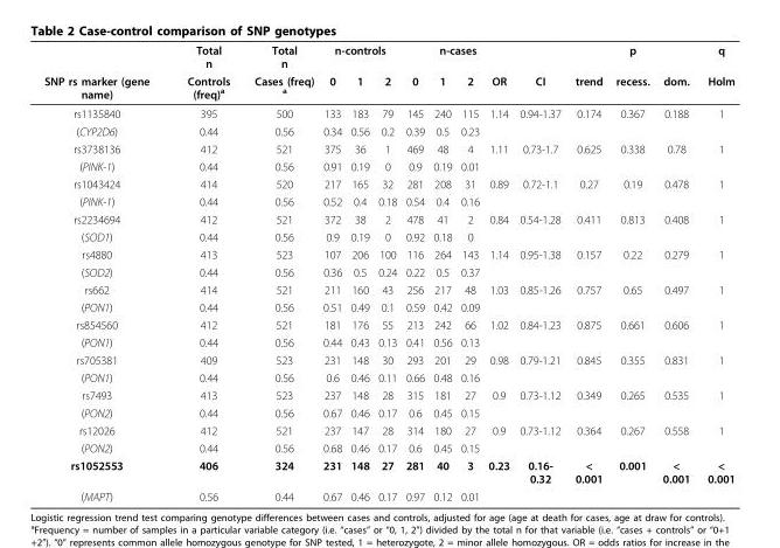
<table><thead><tr><td rowspan="2">SNP rs marker (gene name)</td><td rowspan="2">Total n Controls (freq)<sup>a</sup></td><td rowspan="2">Total n Cases (freq) <sup>a</sup></td><td colspan="3">n-controls</td><td colspan="4">n-cases</td><td rowspan="2">CI</td><td rowspan="2">trend</td><td rowspan="2">p recess.</td><td rowspan="2">dom.</td><td rowspan="2">q Holm</td></tr><tr><td>0</td><td>1</td><td>2</td><td>0</td><td>1</td><td>2</td><td>OR</td></tr></thead><tbody><tr><td>rs1135840</td><td>395</td><td>500</td><td>133</td><td>183</td><td>79</td><td>145</td><td>240</td><td>115</td><td>1.14</td><td>0.94-1.37</td><td>0.174</td><td>0.367</td><td>0.188</td><td>1</td></tr><tr><td>(CYP2D6)</td><td>0.44</td><td>0.56</td><td>0.34</td><td>0.56</td><td>0.2</td><td>0.39</td><td>0.5</td><td>0.23</td><td></td><td></td><td></td><td></td><td></td><td></td></tr><tr><td>rs3738136</td><td>412</td><td>521</td><td>375</td><td>36</td><td>1</td><td>469</td><td>48</td><td>4</td><td>1.11</td><td>0.73-1.7</td><td>0.625</td><td>0.338</td><td>0.78</td><td>1</td></tr><tr><td>(PINK-1)</td><td>0.44</td><td>0.56</td><td>0.91</td><td>0.19</td><td>0</td><td>0.9</td><td>0.19</td><td>0.01</td><td></td><td></td><td></td><td></td><td></td><td></td></tr><tr><td>rs1043424</td><td>414</td><td>520</td><td>217</td><td>165</td><td>32</td><td>281</td><td>208</td><td>31</td><td>0.89</td><td>0.72-1.1</td><td>0.27</td><td>0.19</td><td>0.478</td><td>1</td></tr><tr><td>(PINK-1)</td><td>0.44</td><td>0.56</td><td>0.52</td><td>0.4</td><td>0.18</td><td>0.54</td><td>0.4</td><td>0.16</td><td></td><td></td><td></td><td></td><td></td><td></td></tr><tr><td>rs2234694</td><td>412</td><td>521</td><td>372</td><td>38</td><td>2</td><td>478</td><td>41</td><td>2</td><td>0.84</td><td>0.54-1.28</td><td>0.411</td><td>0.813</td><td>0.408</td><td>1</td></tr><tr><td>(SOD1)</td><td>0.44</td><td>0.56</td><td>0.9</td><td>0.19</td><td>0</td><td>0.92</td><td>0.18</td><td>0</td><td></td><td></td><td></td><td></td><td></td><td></td></tr><tr><td>rs4880</td><td>413</td><td>523</td><td>107</td><td>206</td><td>100</td><td>116</td><td>264</td><td>143</td><td>1.14</td><td>0.95-1.38</td><td>0.157</td><td>0.22</td><td>0.279</td><td>1</td></tr><tr><td>(SOD2)</td><td>0.44</td><td>0.56</td><td>0.36</td><td>0.5</td><td>0.24</td><td>0.22</td><td>0.5</td><td>0.37</td><td></td><td></td><td></td><td></td><td></td><td></td></tr><tr><td>rs662</td><td>414</td><td>521</td><td>211</td><td>160</td><td>43</td><td>256</td><td>217</td><td>48</td><td>1.03</td><td>0.85-1.26</td><td>0.757</td><td>0.65</td><td>0.497</td><td>1</td></tr><tr><td>(PON1)</td><td>0.44</td><td>0.56</td><td>0.51</td><td>0.49</td><td>0.1</td><td>0.59</td><td>0.42</td><td>0.09</td><td></td><td></td><td></td><td></td><td></td><td></td></tr><tr><td>rs854560</td><td>412</td><td>521</td><td>181</td><td>176</td><td>55</td><td>213</td><td>242</td><td>66</td><td>1.02</td><td>0.84-1.23</td><td>0.875</td><td>0.661</td><td>0.606</td><td>1</td></tr><tr><td>(PON1)</td><td>0.44</td><td>0.56</td><td>0.44</td><td>0.43</td><td>0.13</td><td>0.41</td><td>0.56</td><td>0.13</td><td></td><td></td><td></td><td></td><td></td><td></td></tr><tr><td>rs705381</td><td>409</td><td>523</td><td>231</td><td>148</td><td>30</td><td>293</td><td>201</td><td>29</td><td>0.98</td><td>0.79-1.21</td><td>0.845</td><td>0.355</td><td>0.831</td><td>1</td></tr><tr><td>(PON1)</td><td>0.44</td><td>0.56</td><td>0.6</td><td>0.46</td><td>0.11</td><td>0.66</td><td>0.48</td><td>0.16</td><td></td><td></td><td></td><td></td><td></td><td></td></tr><tr><td>rs7493</td><td>413</td><td>523</td><td>237</td><td>148</td><td>28</td><td>315</td><td>181</td><td>27</td><td>0.9</td><td>0.73-1.12</td><td>0.349</td><td>0.265</td><td>0.535</td><td>1</td></tr><tr><td>(PON2)</td><td>0.44</td><td>0.56</td><td>0.67</td><td>0.46</td><td>0.17</td><td>0.6</td><td>0.45</td><td>0.15</td><td></td><td></td><td></td><td></td><td></td><td></td></tr><tr><td>rs12026</td><td>412</td><td>521</td><td>237</td><td>147</td><td>28</td><td>314</td><td>180</td><td>27</td><td>0.9</td><td>0.73-1.12</td><td>0.364</td><td>0.267</td><td>0.558</td><td>1</td></tr><tr><td>(PON2)</td><td>0.44</td><td>0.56</td><td>0.68</td><td>0.46</td><td>0.17</td><td>0.6</td><td>0.45</td><td>0.15</td><td></td><td></td><td></td><td></td><td></td><td></td></tr><tr><td>rs1052553</td><td>406</td><td>324</td><td>231</td><td>148</td><td>27</td><td>281</td><td>40</td><td>3</td><td>0.23</td><td>0.16- 0.32</td><td>&lt; 0.001</td><td>0.001</td><td>&lt; 0.001</td><td>&lt; 0.001</td></tr><tr><td>(MAPT)</td><td>0.56</td><td>0.44</td><td>0.67</td><td>0.46</td><td>0.17</td><td>0.97</td><td>0.12</td><td>0.01</td><td></td><td></td><td></td><td></td><td></td><td></td></tr></tbody></table>